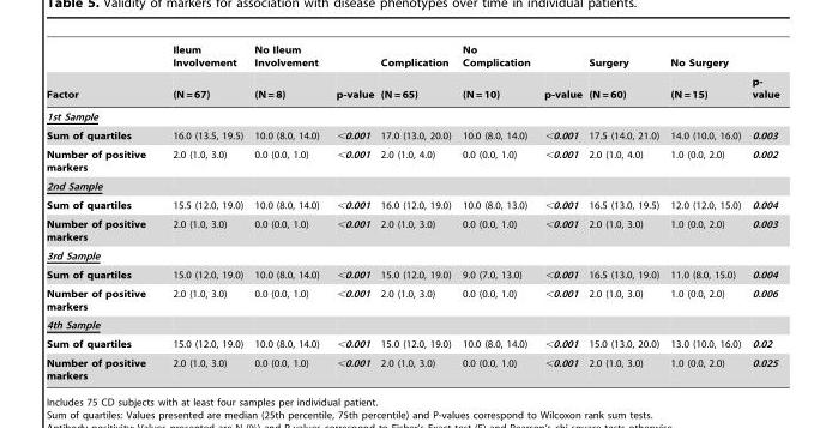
<table><thead><tr><td rowspan="2">Factor</td><td rowspan="2">Ileum Involvement (N = 67)</td><td rowspan="2">No Ileum Involvement (N = 8)</td><td rowspan="2">p-value</td><td rowspan="2">Complication (N = 65)</td><td rowspan="2">No Complication (N = 10)</td><td rowspan="2">p-value</td><td rowspan="2">Surgery (N = 60)</td><td rowspan="2">No Surgery (N = 15)</td><td rowspan="2">p- value</td></tr><tr></tr></thead><tbody><tr><td colspan="10">1st Sample</td></tr><tr><td>Sum of quartiles</td><td>16.0 (13.5, 19.5)</td><td>10.0 (8.0, 14.0)</td><td>&lt;0.001</td><td>17.0 (13.0, 20.0)</td><td>10.0 (8.0, 14.0)</td><td>&lt;0.001</td><td>17.5 (14.0, 21.0)</td><td>14.0 (10.0, 16.0)</td><td>0.003</td></tr><tr><td>Number of positive markers</td><td>2.0 (1.0, 3.0)</td><td>0.0 (0.0, 1.0)</td><td>&lt;0.001</td><td>2.0 (1.0, 4.0)</td><td>0.0 (0.0, 1.0)</td><td>&lt;0.001</td><td>2.0 (1.0, 4.0)</td><td>1.0 (0.0, 2.0)</td><td>0.002</td></tr><tr><td colspan="10">2nd Sample</td></tr><tr><td>Sum of quartiles</td><td>15.5 (12.0, 19.0)</td><td>10.0 (8.0, 14.0)</td><td>&lt;0.001</td><td>16.0 (12.0, 19.0)</td><td>10.0 (8.0, 13.0)</td><td>&lt;0.001</td><td>16.5 (13.0, 19.5)</td><td>12.0 (12.0, 15.0)</td><td>0.004</td></tr><tr><td>Number of positive markers</td><td>2.0 (1.0, 3.0)</td><td>0.0 (0.0, 1.0)</td><td>&lt;0.001</td><td>2.0 (1.0, 3.0)</td><td>0.0 (0.0, 1.0)</td><td>&lt;0.001</td><td>2.0 (1.0, 3.0)</td><td>1.0 (0.0, 2.0)</td><td>0.003</td></tr><tr><td colspan="10">3rd Sample</td></tr><tr><td>Sum of quartiles</td><td>15.0 (12.0, 19.0)</td><td>10.0 (8.0, 14.0)</td><td>&lt;0.001</td><td>15.0 (12.0, 19.0)</td><td>9.0 (7.0, 13.0)</td><td>&lt;0.001</td><td>16.5 (13.0, 19.0)</td><td>11.0 (8.0, 15.0)</td><td>0.004</td></tr><tr><td>Number of positive markers</td><td>2.0 (1.0, 3.0)</td><td>0.0 (0.0, 1.0)</td><td>&lt;0.001</td><td>2.0 (1.0, 3.0)</td><td>0.0 (0.0, 1.0)</td><td>&lt;0.001</td><td>2.0 (1.0, 3.0)</td><td>1.0 (0.0, 2.0)</td><td>0.006</td></tr><tr><td colspan="10">4th Sample</td></tr><tr><td>Sum of quartiles</td><td>15.0 (12.0, 19.0)</td><td>10.0 (8.0, 14.0)</td><td>&lt;0.001</td><td>15.0 (12.0, 19.0)</td><td>10.0 (8.0, 14.0)</td><td>&lt;0.001</td><td>15.0 (13.0, 20.0)</td><td>13.0 (10.0, 16.0)</td><td>0.02</td></tr><tr><td>Number of positive markers</td><td>2.0 (1.0, 3.0)</td><td>0.0 (0.0, 1.0)</td><td>&lt;0.001</td><td>2.0 (1.0, 3.0)</td><td>0.0 (0.0, 1.0)</td><td>&lt;0.001</td><td>2.0 (1.0, 3.0)</td><td>1.0 (0.0, 2.0)</td><td>0.025</td></tr></tbody></table>